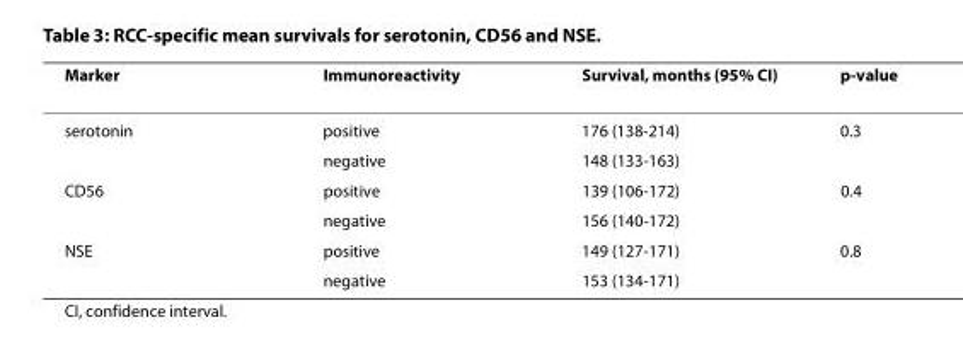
<table><thead><tr><td>Marker</td><td>Immunoreactivity</td><td>Survival, months (95% CI)</td><td>p-value</td></tr></thead><tbody><tr><td rowspan="2">serotonin</td><td>positive</td><td>176 (138-214)</td><td>0.3</td></tr><tr><td>negative</td><td>148 (133-163)</td><td></td></tr><tr><td rowspan="2">CD56</td><td>positive</td><td>139 (106-172)</td><td>0.4</td></tr><tr><td>negative</td><td>156 (140-172)</td><td></td></tr><tr><td rowspan="2">NSE</td><td>positive</td><td>149 (127-171)</td><td>0.8</td></tr><tr><td>negative</td><td>153 (134-171)</td><td></td></tr></tbody></table>